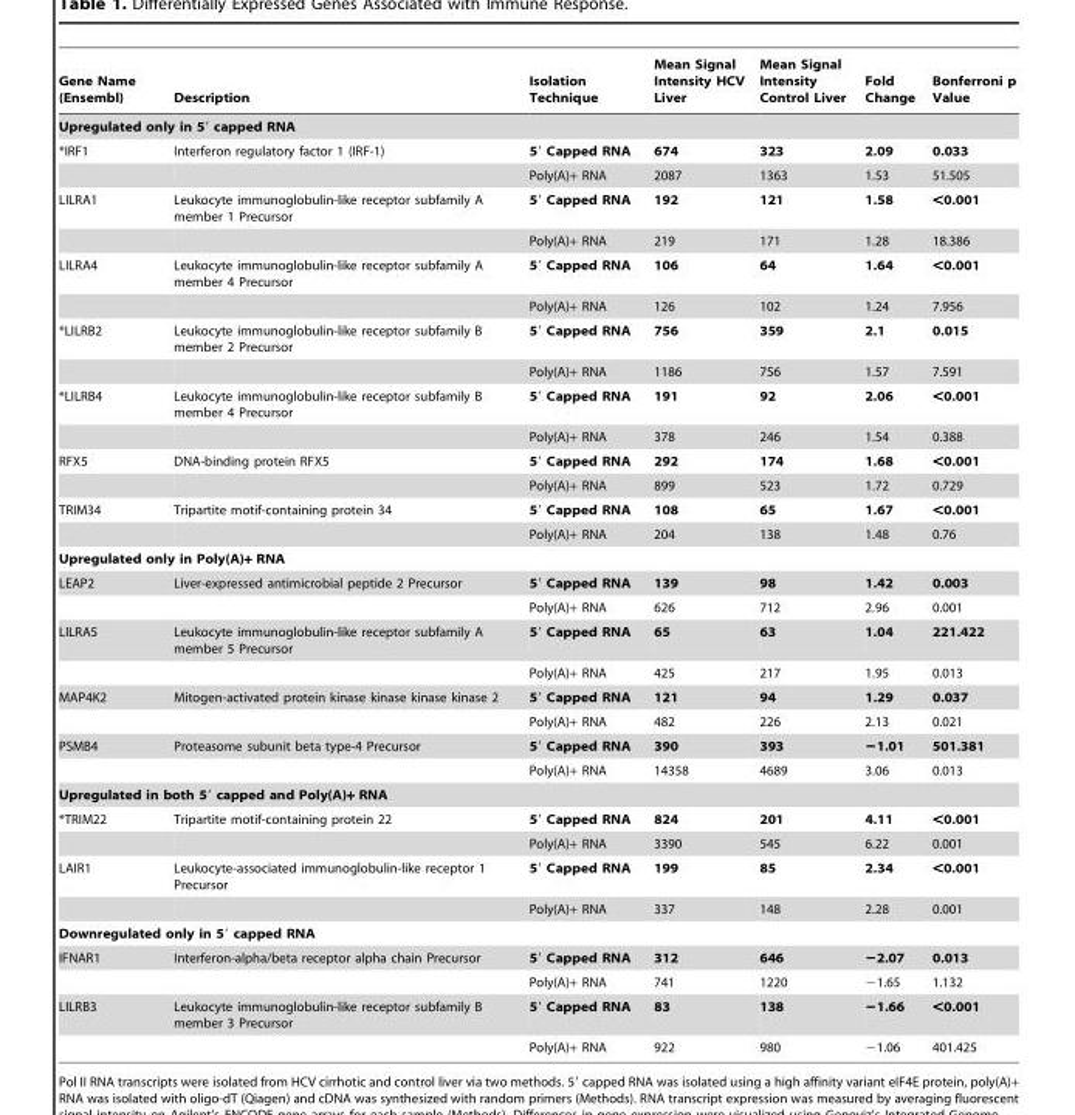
<table><thead><tr><td>Gene Name (Ensembl)</td><td>Description</td><td>Isolation Technique</td><td>Mean Signal Intensity HCV Liver</td><td>Mean Signal Intensity Control Liver</td><td>Fold Change</td><td>Bonferroni p Value</td></tr></thead><tbody><tr><td colspan="7">Upregulated only in 5′ capped RNA</td></tr><tr><td rowspan="2">*IRF1</td><td>Interferon regulatory factor 1 (IRF-1)</td><td>5′ Capped RNA</td><td>674</td><td>323</td><td>2.09</td><td>0.033</td></tr><tr><td></td><td>Poly(A)+ RNA</td><td>2087</td><td>1363</td><td>1.53</td><td>51.505</td></tr><tr><td rowspan="2">LILRA1</td><td>Leukocyte immunoglobulin-like receptor subfamily A member 1 Precursor</td><td>5′ Capped RNA</td><td>192</td><td>121</td><td>1.58</td><td>&lt;0.001</td></tr><tr><td></td><td>Poly(A)+ RNA</td><td>219</td><td>171</td><td>1.28</td><td>18.386</td></tr><tr><td rowspan="2">LILRA4</td><td>Leukocyte immunoglobulin-like receptor subfamily A member 4 Precursor</td><td>5′ Capped RNA</td><td>106</td><td>64</td><td>1.64</td><td>&lt;0.001</td></tr><tr><td></td><td>Poly(A)+ RNA</td><td>126</td><td>102</td><td>1.24</td><td>7.956</td></tr><tr><td rowspan="2">*LILRB2</td><td>Leukocyte immunoglobulin-like receptor subfamily B member 2 Precursor</td><td>5′ Capped RNA</td><td>756</td><td>359</td><td>2.1</td><td>0.015</td></tr><tr><td></td><td>Poly(A)+ RNA</td><td>1186</td><td>756</td><td>1.57</td><td>7.591</td></tr><tr><td rowspan="2">*LILRB4</td><td>Leukocyte immunoglobulin-like receptor subfamily B member 4 Precursor</td><td>5′ Capped RNA</td><td>191</td><td>92</td><td>2.06</td><td>&lt;0.001</td></tr><tr><td></td><td>Poly(A)+ RNA</td><td>378</td><td>246</td><td>1.54</td><td>0.388</td></tr><tr><td rowspan="2">RFX5</td><td>DNA-binding protein RFX5</td><td>5′ Capped RNA</td><td>292</td><td>174</td><td>1.68</td><td>&lt;0.001</td></tr><tr><td></td><td>Poly(A)+ RNA</td><td>899</td><td>523</td><td>1.72</td><td>0.729</td></tr><tr><td rowspan="2">TRIM34</td><td>Tripartite motif-containing protein 34</td><td>5′ Capped RNA</td><td>108</td><td>65</td><td>1.67</td><td>&lt;0.001</td></tr><tr><td></td><td>Poly(A)+ RNA</td><td>204</td><td>138</td><td>1.48</td><td>0.76</td></tr><tr><td colspan="7">Upregulated only in Poly(A)+ RNA</td></tr><tr><td rowspan="2">LEAP2</td><td>Liver-expressed antimicrobial peptide 2 Precursor</td><td>5′ Capped RNA</td><td>139</td><td>98</td><td>1.42</td><td>0.003</td></tr><tr><td></td><td>Poly(A)+ RNA</td><td>626</td><td>712</td><td>2.96</td><td>0.001</td></tr><tr><td rowspan="2">LILRA5</td><td>Leukocyte immunoglobulin-like receptor subfamily A member 5 Precursor</td><td>5′ Capped RNA</td><td>65</td><td>63</td><td>1.04</td><td>221.422</td></tr><tr><td></td><td>Poly(A)+ RNA</td><td>425</td><td>217</td><td>1.95</td><td>0.013</td></tr><tr><td rowspan="2">MAP4K2</td><td>Mitogen-activated protein kinase kinase kinase kinase 2</td><td>5′ Capped RNA</td><td>121</td><td>94</td><td>1.29</td><td>0.037</td></tr><tr><td></td><td>Poly(A)+ RNA</td><td>482</td><td>226</td><td>2.13</td><td>0.021</td></tr><tr><td rowspan="2">PSMB4</td><td>Proteasome subunit beta type-4 Precursor</td><td>5′ Capped RNA</td><td>390</td><td>393</td><td>−1.01</td><td>501.381</td></tr><tr><td></td><td>Poly(A)+ RNA</td><td>14358</td><td>4689</td><td>3.06</td><td>0.013</td></tr><tr><td colspan="7">Upregulated in both 5′ capped and Poly(A)+ RNA</td></tr><tr><td rowspan="2">*TRIM22</td><td>Tripartite motif-containing protein 22</td><td>5′ Capped RNA</td><td>824</td><td>201</td><td>4.11</td><td>&lt;0.001</td></tr><tr><td></td><td>Poly(A)+ RNA</td><td>3390</td><td>545</td><td>6.22</td><td>0.001</td></tr><tr><td rowspan="2">LAIR1</td><td>Leukocyte-associated immunoglobulin-like receptor 1 Precursor</td><td>5′ Capped RNA</td><td>199</td><td>85</td><td>2.34</td><td>&lt;0.001</td></tr><tr><td></td><td>Poly(A)+ RNA</td><td>337</td><td>148</td><td>2.28</td><td>0.001</td></tr><tr><td colspan="7">Downregulated only in 5′ capped RNA</td></tr><tr><td rowspan="2">IFNAR1</td><td>Interferon-alpha/beta receptor alpha chain Precursor</td><td>5′ Capped RNA</td><td>312</td><td>646</td><td>−2.07</td><td>0.013</td></tr><tr><td></td><td>Poly(A)+ RNA</td><td>741</td><td>1220</td><td>−1.65</td><td>1.132</td></tr><tr><td rowspan="2">LILRB3</td><td>Leukocyte immunoglobulin-like receptor subfamily B member 3 Precursor</td><td>5′ Capped RNA</td><td>83</td><td>138</td><td>−1.66</td><td>&lt;0.001</td></tr><tr><td></td><td>Poly(A)+ RNA</td><td>922</td><td>980</td><td>−1.06</td><td>401.425</td></tr></tbody></table>